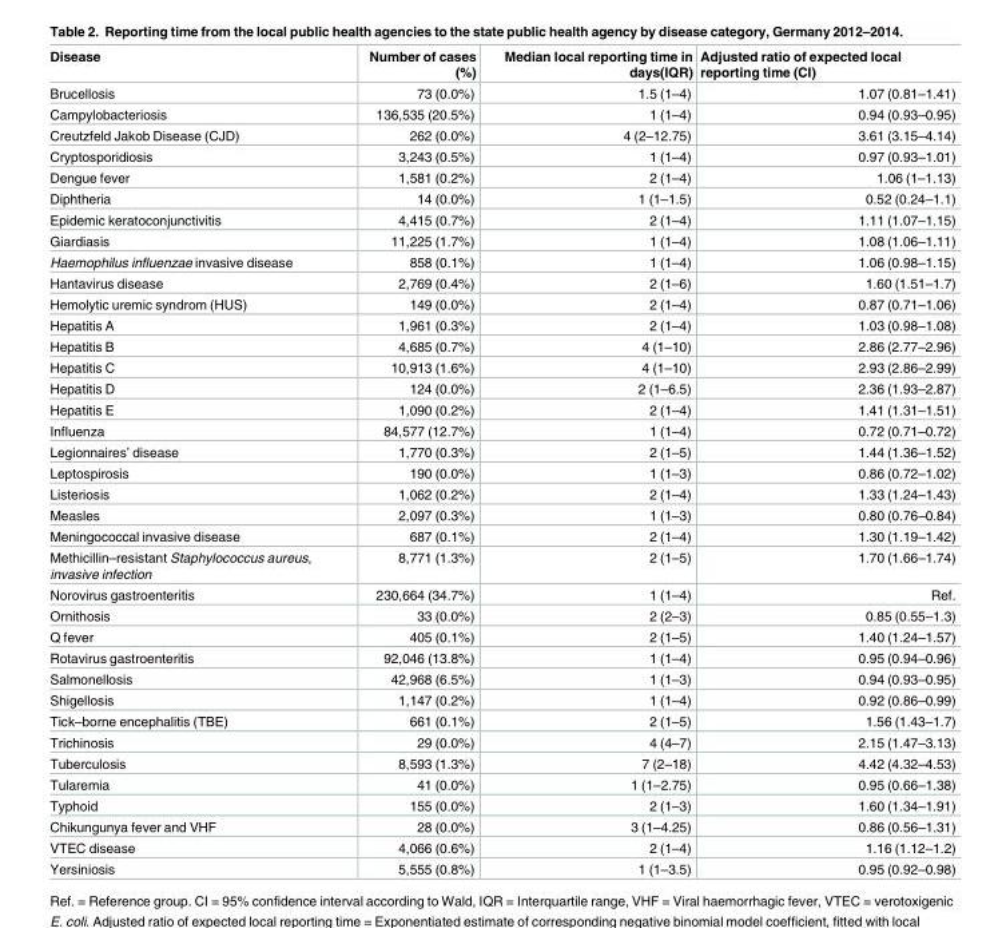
<table><thead><tr><td>Disease</td><td>Number of cases (%)</td><td>Median local reporting time in days(IQR)</td><td>Adjusted ratio of expected local reporting time (CI)</td></tr></thead><tbody><tr><td>Brucellosis</td><td>73 (0.0%)</td><td>1.5 (1–4)</td><td>1.07 (0.81–1.41)</td></tr><tr><td>Campylobacteriosis</td><td>136,535 (20.5%)</td><td>1 (1–4)</td><td>0.94 (0.93–0.95)</td></tr><tr><td>Creutzfeld Jakob Disease (CJD)</td><td>262 (0.0%)</td><td>4 (2–12.75)</td><td>3.61 (3.15–4.14)</td></tr><tr><td>Cryptosporidiosis</td><td>3,243 (0.5%)</td><td>1 (1–4)</td><td>0.97 (0.93–1.01)</td></tr><tr><td>Dengue fever</td><td>1,581 (0.2%)</td><td>2 (1–4)</td><td>1.06 (1–1.13)</td></tr><tr><td>Diphtheria</td><td>14 (0.0%)</td><td>1 (1–1.5)</td><td>0.52 (0.24–1.1)</td></tr><tr><td>Epidemic keratoconjunctivitis</td><td>4,415 (0.7%)</td><td>2 (1–4)</td><td>1.11 (1.07–1.15)</td></tr><tr><td>Giardiasis</td><td>11,225 (1.7%)</td><td>1 (1–4)</td><td>1.08 (1.06–1.11)</td></tr><tr><td>Haemophilus influenzae invasive disease</td><td>858 (0.1%)</td><td>1 (1–4)</td><td>1.06 (0.98–1.15)</td></tr><tr><td>Hantavirus disease</td><td>2,769 (0.4%)</td><td>2 (1–6)</td><td>1.60 (1.51–1.7)</td></tr><tr><td>Hemolytic uremic syndrom (HUS)</td><td>149 (0.0%)</td><td>2 (1–4)</td><td>0.87 (0.71–1.06)</td></tr><tr><td>Hepatitis A</td><td>1,961 (0.3%)</td><td>2 (1–4)</td><td>1.03 (0.98–1.08)</td></tr><tr><td>Hepatitis B</td><td>4,685 (0.7%)</td><td>4 (1–10)</td><td>2.86 (2.77–2.96)</td></tr><tr><td>Hepatitis C</td><td>10,913 (1.6%)</td><td>4 (1–10)</td><td>2.93 (2.86–2.99)</td></tr><tr><td>Hepatitis D</td><td>124 (0.0%)</td><td>2 (1–6.5)</td><td>2.36 (1.93–2.87)</td></tr><tr><td>Hepatitis E</td><td>1,090 (0.2%)</td><td>2 (1–4)</td><td>1.41 (1.31–1.51)</td></tr><tr><td>Influenza</td><td>84,577 (12.7%)</td><td>1 (1–4)</td><td>0.72 (0.71–0.72)</td></tr><tr><td>Legionnaires’ disease</td><td>1,770 (0.3%)</td><td>2 (1–5)</td><td>1.44 (1.36–1.52)</td></tr><tr><td>Leptospirosis</td><td>190 (0.0%)</td><td>1 (1–3)</td><td>0.86 (0.72–1.02)</td></tr><tr><td>Listeriosis</td><td>1,062 (0.2%)</td><td>2 (1–4)</td><td>1.33 (1.24–1.43)</td></tr><tr><td>Measles</td><td>2,097 (0.3%)</td><td>1 (1–3)</td><td>0.80 (0.76–0.84)</td></tr><tr><td>Meningococcal invasive disease</td><td>687 (0.1%)</td><td>2 (1–4)</td><td>1.30 (1.19–1.42)</td></tr><tr><td>Methicillin–resistant Staphylococcus aureus, invasive infection</td><td>8,771 (1.3%)</td><td>2 (1–5)</td><td>1.70 (1.66–1.74)</td></tr><tr><td>Norovirus gastroenteritis</td><td>230,664 (34.7%)</td><td>1 (1–4)</td><td>Ref.</td></tr><tr><td>Ornithosis</td><td>33 (0.0%)</td><td>2 (2–3)</td><td>0.85 (0.55–1.3)</td></tr><tr><td>Q fever</td><td>405 (0.1%)</td><td>2 (1–5)</td><td>1.40 (1.24–1.57)</td></tr><tr><td>Rotavirus gastroenteritis</td><td>92,046 (13.8%)</td><td>1 (1–4)</td><td>0.95 (0.94–0.96)</td></tr><tr><td>Salmonellosis</td><td>42,968 (6.5%)</td><td>1 (1–3)</td><td>0.94 (0.93–0.95)</td></tr><tr><td>Shigellosis</td><td>1,147 (0.2%)</td><td>1 (1–4)</td><td>0.92 (0.86–0.99)</td></tr><tr><td>Tick–borne encephalitis (TBE)</td><td>661 (0.1%)</td><td>2 (1–5)</td><td>1.56 (1.43–1.7)</td></tr><tr><td>Trichinosis</td><td>29 (0.0%)</td><td>4 (4–7)</td><td>2.15 (1.47–3.13)</td></tr><tr><td>Tuberculosis</td><td>8,593 (1.3%)</td><td>7 (2–18)</td><td>4.42 (4.32–4.53)</td></tr><tr><td>Tularemia</td><td>41 (0.0%)</td><td>1 (1–2.75)</td><td>0.95 (0.66–1.38)</td></tr><tr><td>Typhoid</td><td>155 (0.0%)</td><td>2 (1–3)</td><td>1.60 (1.34–1.91)</td></tr><tr><td>Chikungunya fever and VHF</td><td>28 (0.0%)</td><td>3 (1–4.25)</td><td>0.86 (0.56–1.31)</td></tr><tr><td>VTEC disease</td><td>4,066 (0.6%)</td><td>2 (1–4)</td><td>1.16 (1.12–1.2)</td></tr><tr><td>Yersiniosis</td><td>5,555 (0.8%)</td><td>1 (1–3.5)</td><td>0.95 (0.92–0.98)</td></tr></tbody></table>